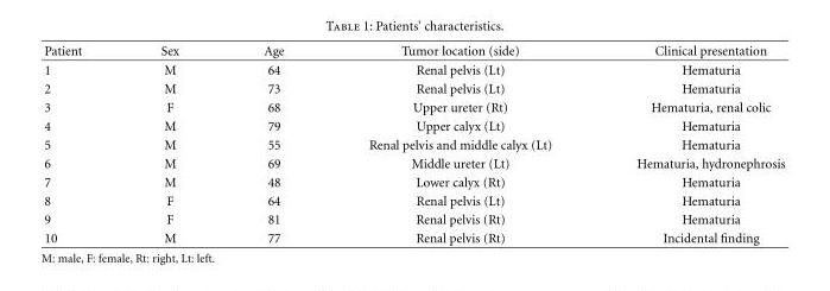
<table><thead><tr><td>Patient</td><td>Sex</td><td>Age</td><td>Tumor location (side)</td><td>Clinical presentation</td></tr></thead><tbody><tr><td>1</td><td>M</td><td>64</td><td>Renal pelvis (Lt)</td><td>Hematuria</td></tr><tr><td>2</td><td>M</td><td>73</td><td>Renal pelvis (Lt)</td><td>Hematuria</td></tr><tr><td>3</td><td>F</td><td>68</td><td>Upper ureter (Rt)</td><td>Hematuria, renal colic</td></tr><tr><td>4</td><td>M</td><td>79</td><td>Upper calyx (Lt)</td><td>Hematuria</td></tr><tr><td>5</td><td>M</td><td>55</td><td>Renal pelvis and middle calyx (Lt)</td><td>Hematuria</td></tr><tr><td>6</td><td>M</td><td>69</td><td>Middle ureter (Lt)</td><td>Hematuria, hydronephrosis</td></tr><tr><td>7</td><td>M</td><td>48</td><td>Lower calyx (Rt)</td><td>Hematuria</td></tr><tr><td>8</td><td>F</td><td>64</td><td>Renal pelvis (Lt)</td><td>Hematuria</td></tr><tr><td>9</td><td>F</td><td>81</td><td>Renal pelvis (Rt)</td><td>Hematuria</td></tr><tr><td>10</td><td>M</td><td>77</td><td>Renal pelvis (Rt)</td><td>Incidental finding</td></tr></tbody></table>